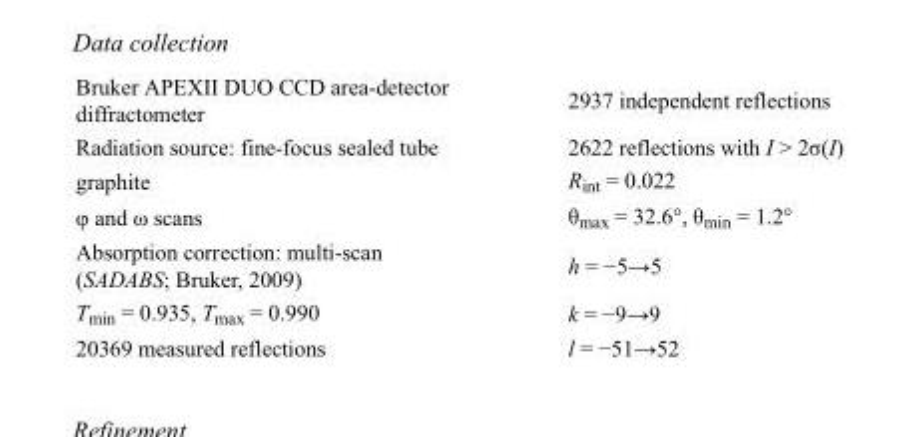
<table><tbody><tr><td>Bruker APEXII DUO CCD area-detector diffractometer</td><td>2937 independent reflections</td></tr><tr><td>Radiation source: fine-focus sealed tube</td><td>2622 reflections with I &gt; 2σ(I)</td></tr><tr><td>graphite</td><td>R<sub>int</sub> = 0.022</td></tr><tr><td>φ and ω scans</td><td>θ<sub>max</sub> = 32.6°, θ<sub>min</sub> = 1.2°</td></tr><tr><td>Absorption correction: multi-scan (SADABS; Bruker, 2009)</td><td>h = −5→5</td></tr><tr><td>T<sub>min</sub> = 0.935, T<sub>max</sub> = 0.990</td><td>k = −9→9</td></tr><tr><td>20369 measured reflections</td><td>l = −51→52</td></tr></tbody></table>